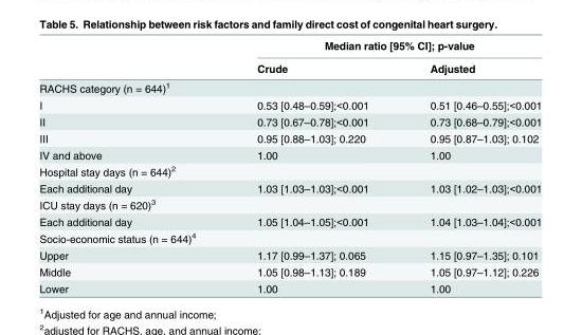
<table><thead><tr><td rowspan="2"></td><td colspan="2">Median ratio [95% CI]; p-value</td></tr><tr><td>Crude</td><td>Adjusted</td></tr></thead><tbody><tr><td colspan="3">RACHS category (n = 644)<sup>1</sup></td></tr><tr><td>I</td><td>0.53 [0.48–0.59];&lt;0.001</td><td>0.51 [0.46–0.55];&lt;0.001</td></tr><tr><td>II</td><td>0.73 [0.67–0.78];&lt;0.001</td><td>0.73 [0.68–0.79];&lt;0.001</td></tr><tr><td>III</td><td>0.95 [0.88–1.03]; 0.220</td><td>0.95 [0.87–1.03]; 0.102</td></tr><tr><td>IV and above</td><td>1.00</td><td>1.00</td></tr><tr><td colspan="3">Hospital stay days (n = 644)<sup>2</sup></td></tr><tr><td>Each additional day</td><td>1.03 [1.03–1.03];&lt;0.001</td><td>1.03 [1.02–1.03];&lt;0.001</td></tr><tr><td colspan="3">ICU stay days (n = 620)<sup>3</sup></td></tr><tr><td>Each additional day</td><td>1.05 [1.04–1.05];&lt;0.001</td><td>1.04 [1.03–1.04];&lt;0.001</td></tr><tr><td colspan="3">Socio-economic status (n = 644)<sup>4</sup></td></tr><tr><td>Upper</td><td>1.17 [0.99–1.37]; 0.065</td><td>1.15 [0.97–1.35]; 0.101</td></tr><tr><td>Middle</td><td>1.05 [0.98–1.13]; 0.189</td><td>1.05 [0.97–1.12]; 0.226</td></tr><tr><td>Lower</td><td>1.00</td><td>1.00</td></tr></tbody></table>